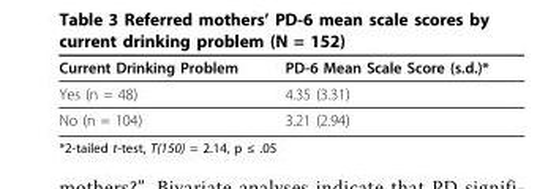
<table><thead><tr><td>Current Drinking Problem</td><td>PD-6 Mean Scale Score (s.d.)*</td></tr></thead><tbody><tr><td>Yes (n = 48)</td><td>4.35 (3.31)</td></tr><tr><td>No (n = 104)</td><td>3.21 (2.94)</td></tr></tbody></table>